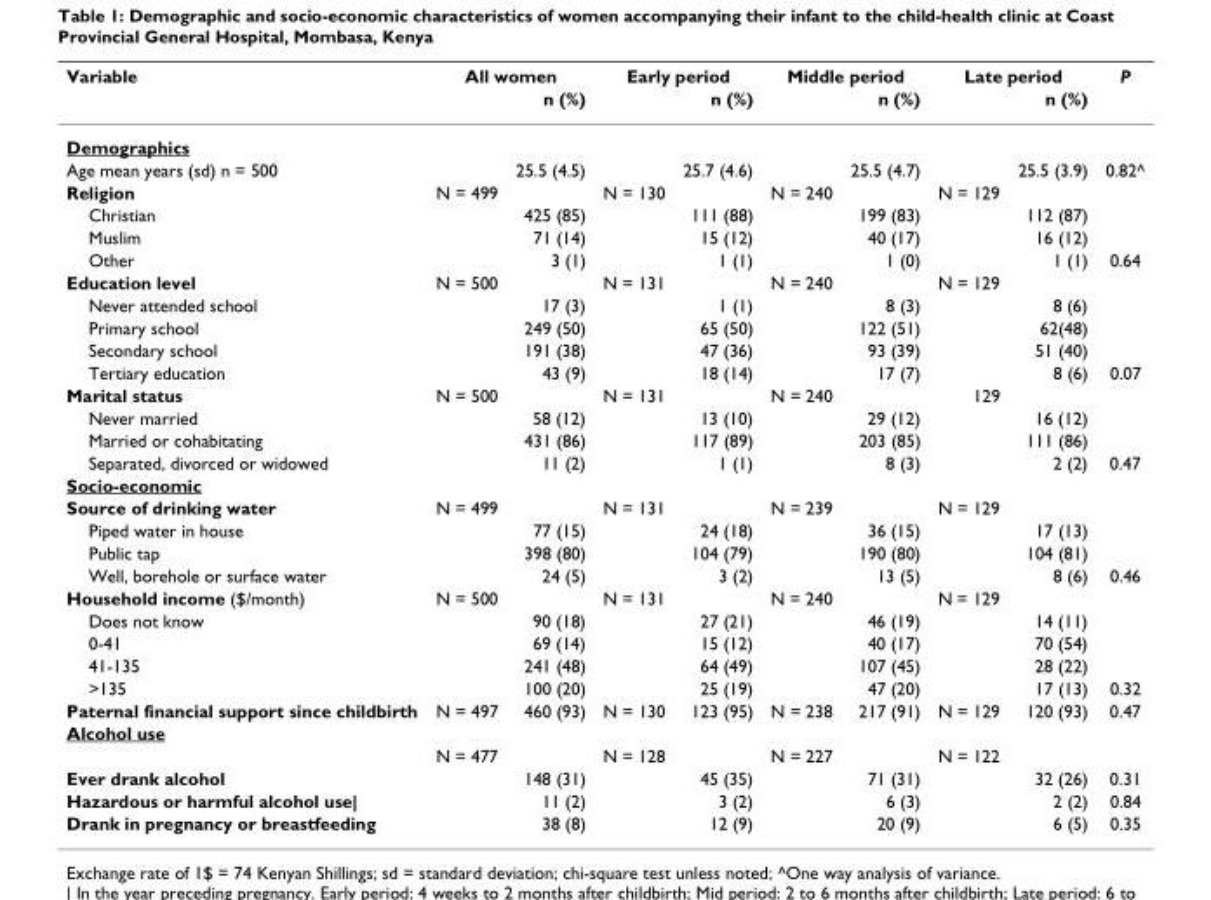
<table><thead><tr><td rowspan="2">Variable</td><td colspan="2">All women</td><td colspan="2">Early period</td><td colspan="2">Middle period</td><td colspan="2">Late period</td><td rowspan="2">P</td></tr><tr><td></td><td>n (%)</td><td></td><td>n (%)</td><td></td><td>n (%)</td><td></td><td>n (%)</td></tr></thead><tbody><tr><td colspan="10">Demographics</td></tr><tr><td>Age mean years (sd) n = 500</td><td></td><td>25.5 (4.5)</td><td></td><td>25.7 (4.6)</td><td></td><td>25.5 (4.7)</td><td></td><td>25.5 (3.9)</td><td>0.82^</td></tr><tr><td>Religion</td><td>N = 499</td><td></td><td>N = 130</td><td></td><td>N = 240</td><td></td><td>N = 129</td><td></td><td></td></tr><tr><td>Christian</td><td></td><td>425 (85)</td><td></td><td>111 (88)</td><td></td><td>199 (83)</td><td></td><td>112 (87)</td><td></td></tr><tr><td>Muslim</td><td></td><td>71 (14)</td><td></td><td>15 (12)</td><td></td><td>40 (17)</td><td></td><td>16 (12)</td><td></td></tr><tr><td>Other</td><td></td><td>3 (1)</td><td></td><td>1 (1)</td><td></td><td>1 (0)</td><td></td><td>1 (1)</td><td>0.64</td></tr><tr><td>Education level</td><td>N = 500</td><td></td><td>N = 131</td><td></td><td>N = 240</td><td></td><td>N = 129</td><td></td><td></td></tr><tr><td>Never attended school</td><td></td><td>17 (3)</td><td></td><td>1 (1)</td><td></td><td>8 (3)</td><td></td><td>8 (6)</td><td></td></tr><tr><td>Primary school</td><td></td><td>249 (50)</td><td></td><td>65 (50)</td><td></td><td>122 (51)</td><td></td><td>62(48)</td><td></td></tr><tr><td>Secondary school</td><td></td><td>191 (38)</td><td></td><td>47 (36)</td><td></td><td>93 (39)</td><td></td><td>51 (40)</td><td></td></tr><tr><td>Tertiary education</td><td></td><td>43 (9)</td><td></td><td>18 (14)</td><td></td><td>17 (7)</td><td></td><td>8 (6)</td><td>0.07</td></tr><tr><td>Marital status</td><td>N = 500</td><td></td><td>N = 131</td><td></td><td>N = 240</td><td></td><td>129</td><td></td><td></td></tr><tr><td>Never married</td><td></td><td>58 (12)</td><td></td><td>13 (10)</td><td></td><td>29 (12)</td><td></td><td>16 (12)</td><td></td></tr><tr><td>Married or cohabitating</td><td></td><td>431 (86)</td><td></td><td>117 (89)</td><td></td><td>203 (85)</td><td></td><td>111 (86)</td><td></td></tr><tr><td>Separated, divorced or widowed</td><td></td><td>11 (2)</td><td></td><td>1 (1)</td><td></td><td>8 (3)</td><td></td><td>2 (2)</td><td>0.47</td></tr><tr><td colspan="10">Socio-economic</td></tr><tr><td>Source of drinking water</td><td>N = 499</td><td></td><td>N = 131</td><td></td><td>N = 239</td><td></td><td>N = 129</td><td></td><td></td></tr><tr><td>Piped water in house</td><td></td><td>77 (15)</td><td></td><td>24 (18)</td><td></td><td>36 (15)</td><td></td><td>17 (13)</td><td></td></tr><tr><td>Public tap</td><td></td><td>398 (80)</td><td></td><td>104 (79)</td><td></td><td>190 (80)</td><td></td><td>104 (81)</td><td></td></tr><tr><td>Well, borehole or surface water</td><td></td><td>24 (5)</td><td></td><td>3 (2)</td><td></td><td>13 (5)</td><td></td><td>8 (6)</td><td>0.46</td></tr><tr><td>Household income ($/month)</td><td>N = 500</td><td></td><td>N = 131</td><td></td><td>N = 240</td><td></td><td>N = 129</td><td></td><td></td></tr><tr><td>Does not know</td><td></td><td>90 (18)</td><td></td><td>27 (21)</td><td></td><td>46 (19)</td><td></td><td>14 (11)</td><td></td></tr><tr><td>0-41</td><td></td><td>69 (14)</td><td></td><td>15 (12)</td><td></td><td>40 (17)</td><td></td><td>70 (54)</td><td></td></tr><tr><td>41-135</td><td></td><td>241 (48)</td><td></td><td>64 (49)</td><td></td><td>107 (45)</td><td></td><td>28 (22)</td><td></td></tr><tr><td>&gt;135</td><td></td><td>100 (20)</td><td></td><td>25 (19)</td><td></td><td>47 (20)</td><td></td><td>17 (13)</td><td>0.32</td></tr><tr><td>Paternal financial support since childbirth</td><td>N = 497</td><td>460 (93)</td><td>N = 130</td><td>123 (95)</td><td>N = 238</td><td>217 (91)</td><td>N = 129</td><td>120 (93)</td><td>0.47</td></tr><tr><td colspan="10">Alcohol use</td></tr><tr><td></td><td>N = 477</td><td></td><td>N = 128</td><td></td><td>N = 227</td><td></td><td>N = 122</td><td></td><td></td></tr><tr><td>Ever drank alcohol</td><td></td><td>148 (31)</td><td></td><td>45 (35)</td><td></td><td>71 (31)</td><td></td><td>32 (26)</td><td>0.31</td></tr><tr><td>Hazardous or harmful alcohol use|</td><td></td><td>11 (2)</td><td></td><td>3 (2)</td><td></td><td>6 (3)</td><td></td><td>2 (2)</td><td>0.84</td></tr><tr><td>Drank in pregnancy or breastfeeding</td><td></td><td>38 (8)</td><td></td><td>12 (9)</td><td></td><td>20 (9)</td><td></td><td>6 (5)</td><td>0.35</td></tr></tbody></table>